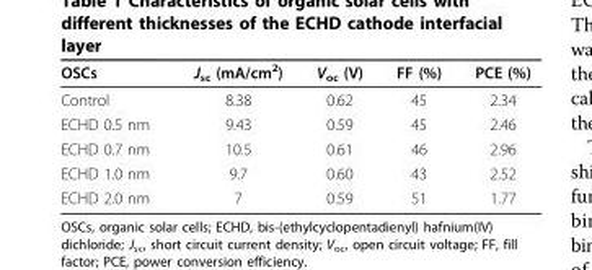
<table><thead><tr><td>OSCs</td><td>J<sub>sc</sub> (mA/cm<sup>2</sup>)</td><td>V<sub>oc</sub> (V)</td><td>FF (%)</td><td>PCE (%)</td></tr></thead><tbody><tr><td>Control</td><td>8.38</td><td>0.62</td><td>45</td><td>2.34</td></tr><tr><td>ECHD 0.5 nm</td><td>9.43</td><td>0.59</td><td>45</td><td>2.46</td></tr><tr><td>ECHD 0.7 nm</td><td>10.5</td><td>0.61</td><td>46</td><td>2.96</td></tr><tr><td>ECHD 1.0 nm</td><td>9.7</td><td>0.60</td><td>43</td><td>2.52</td></tr><tr><td>ECHD 2.0 nm</td><td>7</td><td>0.59</td><td>51</td><td>1.77</td></tr></tbody></table>